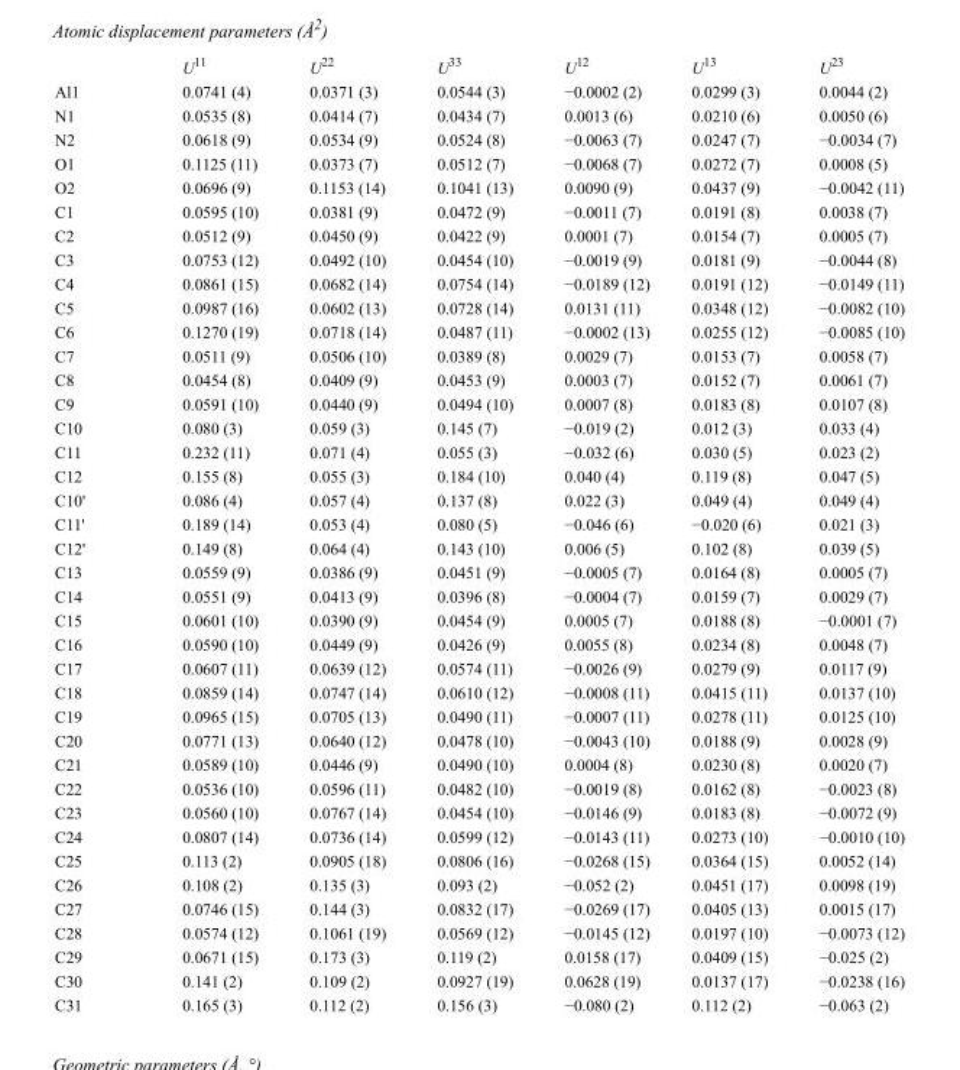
<table><thead><tr><td></td><td>U<sup>11</sup></td><td>U<sup>22</sup></td><td>U<sup>33</sup></td><td>U<sup>12</sup></td><td>U<sup>13</sup></td><td>U<sup>23</sup></td></tr></thead><tbody><tr><td>Al1</td><td>0.0741 (4)</td><td>0.0371 (3)</td><td>0.0544 (3)</td><td>−0.0002 (2)</td><td>0.0299 (3)</td><td>0.0044 (2)</td></tr><tr><td>N1</td><td>0.0535 (8)</td><td>0.0414 (7)</td><td>0.0434 (7)</td><td>0.0013 (6)</td><td>0.0210 (6)</td><td>0.0050 (6)</td></tr><tr><td>N2</td><td>0.0618 (9)</td><td>0.0534 (9)</td><td>0.0524 (8)</td><td>−0.0063 (7)</td><td>0.0247 (7)</td><td>−0.0034 (7)</td></tr><tr><td>O1</td><td>0.1125 (11)</td><td>0.0373 (7)</td><td>0.0512 (7)</td><td>−0.0068 (7)</td><td>0.0272 (7)</td><td>0.0008 (5)</td></tr><tr><td>O2</td><td>0.0696 (9)</td><td>0.1153 (14)</td><td>0.1041 (13)</td><td>0.0090 (9)</td><td>0.0437 (9)</td><td>−0.0042 (11)</td></tr><tr><td>C1</td><td>0.0595 (10)</td><td>0.0381 (9)</td><td>0.0472 (9)</td><td>−0.0011 (7)</td><td>0.0191 (8)</td><td>0.0038 (7)</td></tr><tr><td>C2</td><td>0.0512 (9)</td><td>0.0450 (9)</td><td>0.0422 (9)</td><td>0.0001 (7)</td><td>0.0154 (7)</td><td>0.0005 (7)</td></tr><tr><td>C3</td><td>0.0753 (12)</td><td>0.0492 (10)</td><td>0.0454 (10)</td><td>−0.0019 (9)</td><td>0.0181 (9)</td><td>−0.0044 (8)</td></tr><tr><td>C4</td><td>0.0861 (15)</td><td>0.0682 (14)</td><td>0.0754 (14)</td><td>−0.0189 (12)</td><td>0.0191 (12)</td><td>−0.0149 (11)</td></tr><tr><td>C5</td><td>0.0987 (16)</td><td>0.0602 (13)</td><td>0.0728 (14)</td><td>0.0131 (11)</td><td>0.0348 (12)</td><td>−0.0082 (10)</td></tr><tr><td>C6</td><td>0.1270 (19)</td><td>0.0718 (14)</td><td>0.0487 (11)</td><td>−0.0002 (13)</td><td>0.0255 (12)</td><td>−0.0085 (10)</td></tr><tr><td>C7</td><td>0.0511 (9)</td><td>0.0506 (10)</td><td>0.0389 (8)</td><td>0.0029 (7)</td><td>0.0153 (7)</td><td>0.0058 (7)</td></tr><tr><td>C8</td><td>0.0454 (8)</td><td>0.0409 (9)</td><td>0.0453 (9)</td><td>0.0003 (7)</td><td>0.0152 (7)</td><td>0.0061 (7)</td></tr><tr><td>C9</td><td>0.0591 (10)</td><td>0.0440 (9)</td><td>0.0494 (10)</td><td>0.0007 (8)</td><td>0.0183 (8)</td><td>0.0107 (8)</td></tr><tr><td>C10</td><td>0.080 (3)</td><td>0.059 (3)</td><td>0.145 (7)</td><td>−0.019 (2)</td><td>0.012 (3)</td><td>0.033 (4)</td></tr><tr><td>C11</td><td>0.232 (11)</td><td>0.071 (4)</td><td>0.055 (3)</td><td>−0.032 (6)</td><td>0.030 (5)</td><td>0.023 (2)</td></tr><tr><td>C12</td><td>0.155 (8)</td><td>0.055 (3)</td><td>0.184 (10)</td><td>0.040 (4)</td><td>0.119 (8)</td><td>0.047 (5)</td></tr><tr><td>C10&#x27;</td><td>0.086 (4)</td><td>0.057 (4)</td><td>0.137 (8)</td><td>0.022 (3)</td><td>0.049 (4)</td><td>0.049 (4)</td></tr><tr><td>C11&#x27;</td><td>0.189 (14)</td><td>0.053 (4)</td><td>0.080 (5)</td><td>−0.046 (6)</td><td>−0.020 (6)</td><td>0.021 (3)</td></tr><tr><td>C12&#x27;</td><td>0.149 (8)</td><td>0.064 (4)</td><td>0.143 (10)</td><td>0.006 (5)</td><td>0.102 (8)</td><td>0.039 (5)</td></tr><tr><td>C13</td><td>0.0559 (9)</td><td>0.0386 (9)</td><td>0.0451 (9)</td><td>−0.0005 (7)</td><td>0.0164 (8)</td><td>0.0005 (7)</td></tr><tr><td>C14</td><td>0.0551 (9)</td><td>0.0413 (9)</td><td>0.0396 (8)</td><td>−0.0004 (7)</td><td>0.0159 (7)</td><td>0.0029 (7)</td></tr><tr><td>C15</td><td>0.0601 (10)</td><td>0.0390 (9)</td><td>0.0454 (9)</td><td>0.0005 (7)</td><td>0.0188 (8)</td><td>−0.0001 (7)</td></tr><tr><td>C16</td><td>0.0590 (10)</td><td>0.0449 (9)</td><td>0.0426 (9)</td><td>0.0055 (8)</td><td>0.0234 (8)</td><td>0.0048 (7)</td></tr><tr><td>C17</td><td>0.0607 (11)</td><td>0.0639 (12)</td><td>0.0574 (11)</td><td>−0.0026 (9)</td><td>0.0279 (9)</td><td>0.0117 (9)</td></tr><tr><td>C18</td><td>0.0859 (14)</td><td>0.0747 (14)</td><td>0.0610 (12)</td><td>−0.0008 (11)</td><td>0.0415 (11)</td><td>0.0137 (10)</td></tr><tr><td>C19</td><td>0.0965 (15)</td><td>0.0705 (13)</td><td>0.0490 (11)</td><td>−0.0007 (11)</td><td>0.0278 (11)</td><td>0.0125 (10)</td></tr><tr><td>C20</td><td>0.0771 (13)</td><td>0.0640 (12)</td><td>0.0478 (10)</td><td>−0.0043 (10)</td><td>0.0188 (9)</td><td>0.0028 (9)</td></tr><tr><td>C21</td><td>0.0589 (10)</td><td>0.0446 (9)</td><td>0.0490 (10)</td><td>0.0004 (8)</td><td>0.0230 (8)</td><td>0.0020 (7)</td></tr><tr><td>C22</td><td>0.0536 (10)</td><td>0.0596 (11)</td><td>0.0482 (10)</td><td>−0.0019 (8)</td><td>0.0162 (8)</td><td>−0.0023 (8)</td></tr><tr><td>C23</td><td>0.0560 (10)</td><td>0.0767 (14)</td><td>0.0454 (10)</td><td>−0.0146 (9)</td><td>0.0183 (8)</td><td>−0.0072 (9)</td></tr><tr><td>C24</td><td>0.0807 (14)</td><td>0.0736 (14)</td><td>0.0599 (12)</td><td>−0.0143 (11)</td><td>0.0273 (10)</td><td>−0.0010 (10)</td></tr><tr><td>C25</td><td>0.113 (2)</td><td>0.0905 (18)</td><td>0.0806 (16)</td><td>−0.0268 (15)</td><td>0.0364 (15)</td><td>0.0052 (14)</td></tr><tr><td>C26</td><td>0.108 (2)</td><td>0.135 (3)</td><td>0.093 (2)</td><td>−0.052 (2)</td><td>0.0451 (17)</td><td>0.0098 (19)</td></tr><tr><td>C27</td><td>0.0746 (15)</td><td>0.144 (3)</td><td>0.0832 (17)</td><td>−0.0269 (17)</td><td>0.0405 (13)</td><td>0.0015 (17)</td></tr><tr><td>C28</td><td>0.0574 (12)</td><td>0.1061 (19)</td><td>0.0569 (12)</td><td>−0.0145 (12)</td><td>0.0197 (10)</td><td>−0.0073 (12)</td></tr><tr><td>C29</td><td>0.0671 (15)</td><td>0.173 (3)</td><td>0.119 (2)</td><td>0.0158 (17)</td><td>0.0409 (15)</td><td>−0.025 (2)</td></tr><tr><td>C30</td><td>0.141 (2)</td><td>0.109 (2)</td><td>0.0927 (19)</td><td>0.0628 (19)</td><td>0.0137 (17)</td><td>−0.0238 (16)</td></tr><tr><td>C31</td><td>0.165 (3)</td><td>0.112 (2)</td><td>0.156 (3)</td><td>−0.080 (2)</td><td>0.112 (2)</td><td>−0.063 (2)</td></tr></tbody></table>